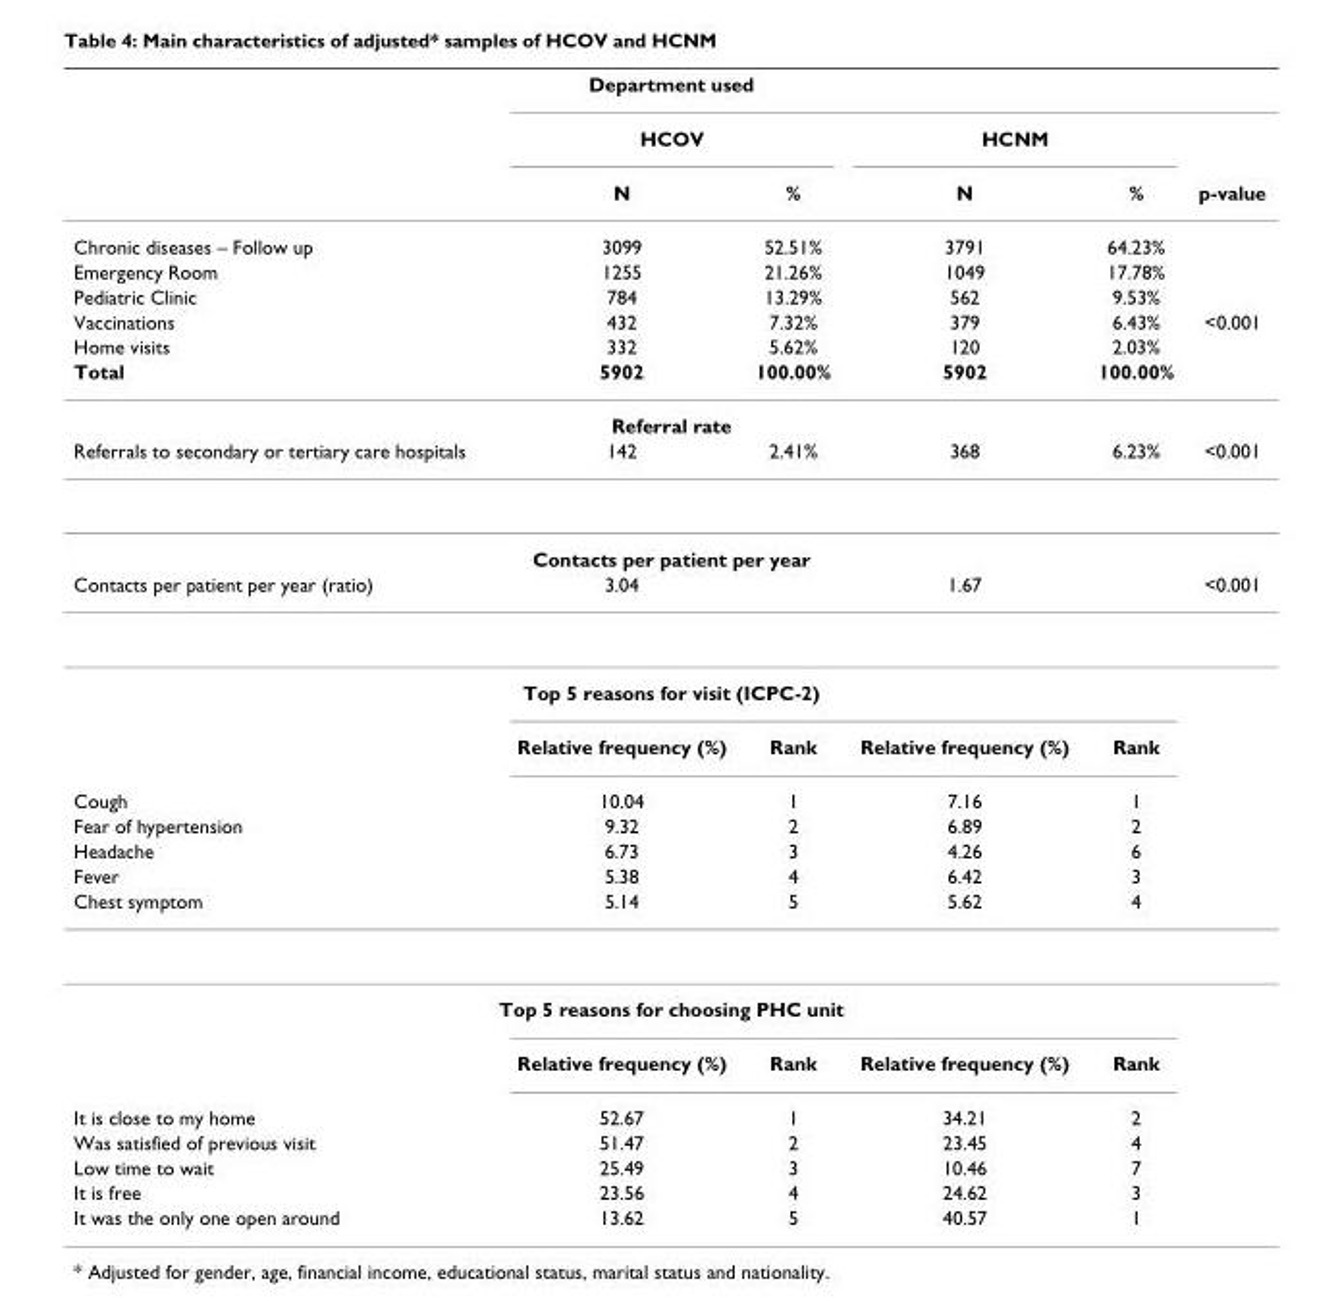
<table><thead><tr><td colspan="6">Department used</td></tr><tr><td rowspan="2"></td><td colspan="2">HCOV</td><td colspan="2">HCNM</td><td rowspan="2">p-value</td></tr><tr><td>N</td><td>%</td><td>N</td><td>%</td></tr></thead><tbody><tr><td>Chronic diseases – Follow up</td><td>3099</td><td>52.51%</td><td>3791</td><td>64.23%</td><td></td></tr><tr><td>Emergency Room</td><td>1255</td><td>21.26%</td><td>1049</td><td>17.78%</td><td></td></tr><tr><td>Pediatric Clinic</td><td>784</td><td>13.29%</td><td>562</td><td>9.53%</td><td></td></tr><tr><td>Vaccinations</td><td>432</td><td>7.32%</td><td>379</td><td>6.43%</td><td>&lt;0.001</td></tr><tr><td>Home visits</td><td>332</td><td>5.62%</td><td>120</td><td>2.03%</td><td></td></tr><tr><td>Total</td><td>5902</td><td>100.00%</td><td>5902</td><td>100.00%</td><td></td></tr><tr><td colspan="6">Referral rate</td></tr><tr><td>Referrals to secondary or tertiary care hospitals</td><td>142</td><td>2.41%</td><td>368</td><td>6.23%</td><td>&lt;0.001</td></tr><tr><td colspan="6">Contacts per patient per year</td></tr><tr><td>Contacts per patient per year (ratio)</td><td>3.04</td><td></td><td>1.67</td><td></td><td>&lt;0.001</td></tr><tr><td colspan="6">Top 5 reasons for visit (ICPC-2)</td></tr><tr><td></td><td>Relative frequency (%)</td><td>Rank</td><td>Relative frequency (%)</td><td>Rank</td><td></td></tr><tr><td>Cough</td><td>10.04</td><td>1</td><td>7.16</td><td>1</td><td></td></tr><tr><td>Fear of hypertension</td><td>9.32</td><td>2</td><td>6.89</td><td>2</td><td></td></tr><tr><td>Headache</td><td>6.73</td><td>3</td><td>4.26</td><td>6</td><td></td></tr><tr><td>Fever</td><td>5.38</td><td>4</td><td>6.42</td><td>3</td><td></td></tr><tr><td>Chest symptom</td><td>5.14</td><td>5</td><td>5.62</td><td>4</td><td></td></tr><tr><td colspan="6">Top 5 reasons for choosing PHC unit</td></tr><tr><td></td><td>Relative frequency (%)</td><td>Rank</td><td>Relative frequency (%)</td><td>Rank</td><td></td></tr><tr><td>It is close to my home</td><td>52.67</td><td>1</td><td>34.21</td><td>2</td><td></td></tr><tr><td>Was satisfied of previous visit</td><td>51.47</td><td>2</td><td>23.45</td><td>4</td><td></td></tr><tr><td>Low time to wait</td><td>25.49</td><td>3</td><td>10.46</td><td>7</td><td></td></tr><tr><td>It is free</td><td>23.56</td><td>4</td><td>24.62</td><td>3</td><td></td></tr><tr><td>It was the only one open around</td><td>13.62</td><td>5</td><td>40.57</td><td>1</td><td></td></tr></tbody></table>